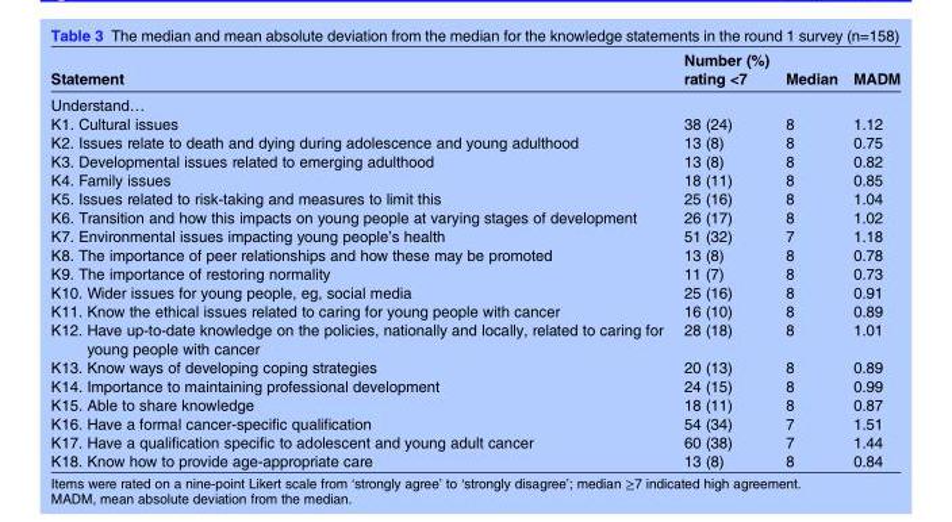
<table><thead><tr><td>Statement</td><td>Number (%) rating &lt;7</td><td>Median</td><td>MADM</td></tr></thead><tbody><tr><td colspan="4">Understand…</td></tr><tr><td>K1. Cultural issues</td><td>38 (24)</td><td>8</td><td>1.12</td></tr><tr><td>K2. Issues relate to death and dying during adolescence and young adulthood</td><td>13 (8)</td><td>8</td><td>0.75</td></tr><tr><td>K3. Developmental issues related to emerging adulthood</td><td>13 (8)</td><td>8</td><td>0.82</td></tr><tr><td>K4. Family issues</td><td>18 (11)</td><td>8</td><td>0.85</td></tr><tr><td>K5. Issues related to risk-taking and measures to limit this</td><td>25 (16)</td><td>8</td><td>1.04</td></tr><tr><td>K6. Transition and how this impacts on young people at varying stages of development</td><td>26 (17)</td><td>8</td><td>1.02</td></tr><tr><td>K7. Environmental issues impacting young people’s health</td><td>51 (32)</td><td>7</td><td>1.18</td></tr><tr><td>K8. The importance of peer relationships and how these may be promoted</td><td>13 (8)</td><td>8</td><td>0.78</td></tr><tr><td>K9. The importance of restoring normality</td><td>11 (7)</td><td>8</td><td>0.73</td></tr><tr><td>K10. Wider issues for young people, eg, social media</td><td>25 (16)</td><td>8</td><td>0.91</td></tr><tr><td>K11. Know the ethical issues related to caring for young people with cancer</td><td>16 (10)</td><td>8</td><td>0.89</td></tr><tr><td>K12. Have up-to-date knowledge on the policies, nationally and locally, related to caring for young people with cancer</td><td>28 (18)</td><td>8</td><td>1.01</td></tr><tr><td>K13. Know ways of developing coping strategies</td><td>20 (13)</td><td>8</td><td>0.89</td></tr><tr><td>K14. Importance to maintaining professional development</td><td>24 (15)</td><td>8</td><td>0.99</td></tr><tr><td>K15. Able to share knowledge</td><td>18 (11)</td><td>8</td><td>0.87</td></tr><tr><td>K16. Have a formal cancer-specific qualification</td><td>54 (34)</td><td>7</td><td>1.51</td></tr><tr><td>K17. Have a qualification specific to adolescent and young adult cancer</td><td>60 (38)</td><td>7</td><td>1.44</td></tr><tr><td>K18. Know how to provide age-appropriate care</td><td>13 (8)</td><td>8</td><td>0.84</td></tr></tbody></table>